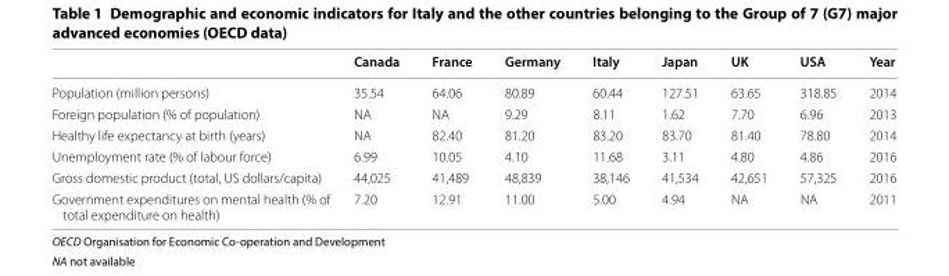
<table><thead><tr><td></td><td>Canada</td><td>France</td><td>Germany</td><td>Italy</td><td>Japan</td><td>UK</td><td>USA</td><td>Year</td></tr></thead><tbody><tr><td>Population (million persons)</td><td>35.54</td><td>64.06</td><td>80.89</td><td>60.44</td><td>127.51</td><td>63.65</td><td>318.85</td><td>2014</td></tr><tr><td>Foreign population (% of population)</td><td>NA</td><td>NA</td><td>9.29</td><td>8.11</td><td>1.62</td><td>7.70</td><td>6.96</td><td>2013</td></tr><tr><td>Healthy life expectancy at birth (years)</td><td>NA</td><td>82.40</td><td>81.20</td><td>83.20</td><td>83.70</td><td>81.40</td><td>78.80</td><td>2014</td></tr><tr><td>Unemployment rate (% of labour force)</td><td>6.99</td><td>10.05</td><td>4.10</td><td>11.68</td><td>3.11</td><td>4.80</td><td>4.86</td><td>2016</td></tr><tr><td>Gross domestic product (total, US dollars/capita)</td><td>44,025</td><td>41,489</td><td>48,839</td><td>38,146</td><td>41,534</td><td>42,651</td><td>57,325</td><td>2016</td></tr><tr><td>Government expenditures on mental health (% of total expenditure on health)</td><td>7.20</td><td>12.91</td><td>11.00</td><td>5.00</td><td>4.94</td><td>NA</td><td>NA</td><td>2011</td></tr></tbody></table>